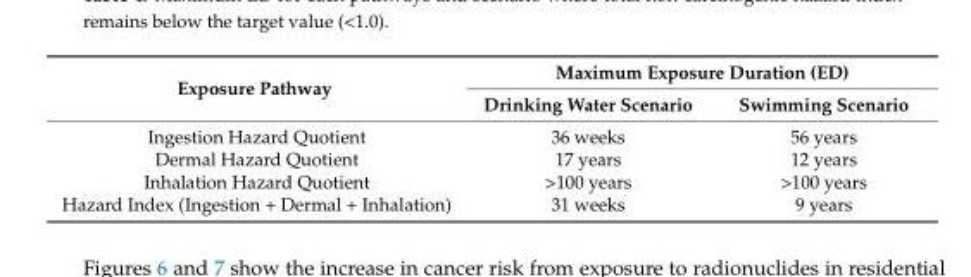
<table><thead><tr><td rowspan="2">Exposure Pathway</td><td colspan="2">Maximum Exposure Duration (ED)</td></tr><tr><td>Drinking Water Scenario</td><td>Swimming Scenario</td></tr></thead><tbody><tr><td>Ingestion Hazard Quotient</td><td>36 weeks</td><td>56 years</td></tr><tr><td>Dermal Hazard Quotient</td><td>17 years</td><td>12 years</td></tr><tr><td>Inhalation Hazard Quotient</td><td>&gt;100 years</td><td>&gt;100 years</td></tr><tr><td>Hazard Index (Ingestion + Dermal + Inhalation)</td><td>31 weeks</td><td>9 years</td></tr></tbody></table>